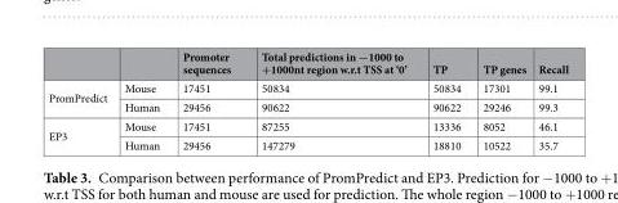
<table><thead><tr><td></td><td></td><td>Promoter sequences</td><td>Total predictions in −1000 to +1000nt region w.r.t TSS at ‘0’</td><td>TP</td><td>TP genes</td><td>Recall</td></tr></thead><tbody><tr><td rowspan="2">PromPredict</td><td>Mouse</td><td>17451</td><td>50834</td><td>50834</td><td>17301</td><td>99.1</td></tr><tr><td>Human</td><td>29456</td><td>90622</td><td>90622</td><td>29246</td><td>99.3</td></tr><tr><td rowspan="2">EP3</td><td>Mouse</td><td>17451</td><td>87255</td><td>13336</td><td>8052</td><td>46.1</td></tr><tr><td>Human</td><td>29456</td><td>147279</td><td>18810</td><td>10522</td><td>35.7</td></tr></tbody></table>